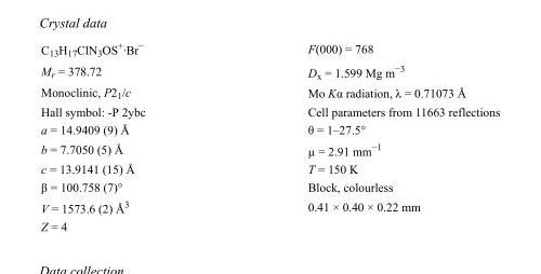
<table><tbody><tr><td>C<sub>13</sub>H<sub>17</sub>ClN<sub>3</sub>OS<sup>+</sup>·Br<sup>−</sup></td><td>F(000) = 768</td></tr><tr><td>M<sub>r</sub> = 378.72</td><td>D<sub>x</sub> = 1.599 Mg m<sup>−3</sup></td></tr><tr><td>Monoclinic, P2<sub>1</sub>/c</td><td>Mo Kα radiation, λ = 0.71073 Å</td></tr><tr><td>Hall symbol: -P 2ybc</td><td>Cell parameters from 11663 reflections</td></tr><tr><td>a = 14.9409 (9) Å</td><td>θ = 1–27.5°</td></tr><tr><td>b = 7.7050 (5) Å</td><td>µ = 2.91 mm<sup>−1</sup></td></tr><tr><td>c = 13.9141 (15) Å</td><td>T = 150 K</td></tr><tr><td>β = 100.758 (7)°</td><td>Block, colourless</td></tr><tr><td>V = 1573.6 (2) Å<sup>3</sup></td><td>0.41 × 0.40 × 0.22 mm</td></tr><tr><td>Z = 4</td><td></td></tr></tbody></table>